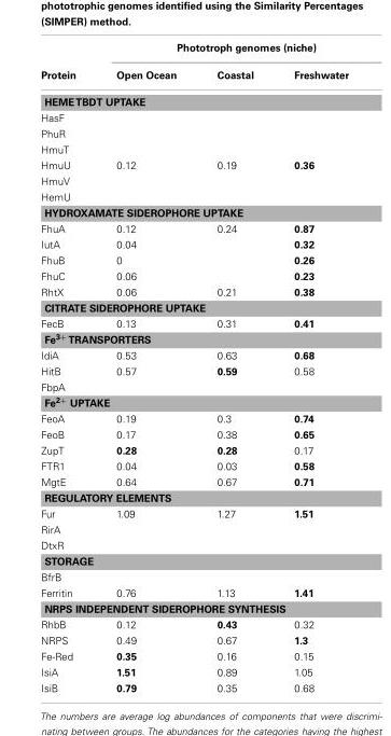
<table><thead><tr><td rowspan="2">Protein</td><td colspan="3">Phototroph genomes (niche)</td></tr><tr><td>Open Ocean</td><td>Coastal</td><td>Freshwater</td></tr></thead><tbody><tr><td colspan="4">HEMETBDT UPTAKE</td></tr><tr><td colspan="4">HasF</td></tr><tr><td colspan="4">PhuR</td></tr><tr><td colspan="4">HmuT</td></tr><tr><td>HmuU</td><td>0.12</td><td>0.19</td><td>0.36</td></tr><tr><td colspan="4">HmuV</td></tr><tr><td colspan="4">HemU</td></tr><tr><td colspan="4">HYDROXAMATE SIDEROPHORE UPTAKE</td></tr><tr><td>FhuA</td><td>0.12</td><td>0.24</td><td>0.87</td></tr><tr><td>IutA</td><td>0.04</td><td></td><td>0.32</td></tr><tr><td>FhuB</td><td>0</td><td></td><td>0.26</td></tr><tr><td>FhuC</td><td>0.06</td><td></td><td>0.23</td></tr><tr><td>RhtX</td><td>0.06</td><td>0.21</td><td>0.38</td></tr><tr><td colspan="4">CITRATE SIDEROPHORE UPTAKE</td></tr><tr><td>FecB</td><td>0.13</td><td>0.31</td><td>0.41</td></tr><tr><td colspan="4">Fe<sup>3+</sup> TRANSPORTERS</td></tr><tr><td>IdiA</td><td>0.53</td><td>0.63</td><td>0.68</td></tr><tr><td>HitB</td><td>0.57</td><td>0.59</td><td>0.58</td></tr><tr><td colspan="4">FbpA</td></tr><tr><td colspan="4">Fe<sup>2+</sup> UPTAKE</td></tr><tr><td>FeoA</td><td>0.19</td><td>0.3</td><td>0.74</td></tr><tr><td>FeoB</td><td>0.17</td><td>0.38</td><td>0.65</td></tr><tr><td>ZupT</td><td>0.28</td><td>0.28</td><td>0.17</td></tr><tr><td>FTR1</td><td>0.04</td><td>0.03</td><td>0.58</td></tr><tr><td>MgtE</td><td>0.64</td><td>0.67</td><td>0.71</td></tr><tr><td colspan="4">REGULATORY ELEMENTS</td></tr><tr><td>Fur</td><td>1.09</td><td>1.27</td><td>1.51</td></tr><tr><td colspan="4">RirA</td></tr><tr><td colspan="4">DtxR</td></tr><tr><td colspan="4">STORAGE</td></tr><tr><td colspan="4">BfrB</td></tr><tr><td>Ferritin</td><td>0.76</td><td>1.13</td><td>1.41</td></tr><tr><td colspan="4">NRPS INDEPENDENT SIDEROPHORE SYNTHESIS</td></tr><tr><td>RhbB</td><td>0.12</td><td>0.43</td><td>0.32</td></tr><tr><td>NRPS</td><td>0.49</td><td>0.67</td><td>1.3</td></tr><tr><td>Fe-Red</td><td>0.35</td><td>0.16</td><td>0.15</td></tr><tr><td>IsiA</td><td>1.51</td><td>0.89</td><td>1.05</td></tr><tr><td>IsiB</td><td>0.79</td><td>0.35</td><td>0.68</td></tr></tbody></table>